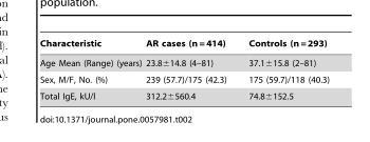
<table><thead><tr><td>Characteristic</td><td>AR cases (n = 414)</td><td>Controls (n = 293)</td></tr></thead><tbody><tr><td>Age Mean (Range) (years)</td><td>23.8±14.8 (4–81)</td><td>37.1±15.8 (2–81)</td></tr><tr><td>Sex, M/F, No. (%)</td><td>239 (57.7)/175 (42.3)</td><td>175 (59.7)/118 (40.3)</td></tr><tr><td>Total IgE, kU/l</td><td>312.2±560.4</td><td>74.8±152.5</td></tr></tbody></table>